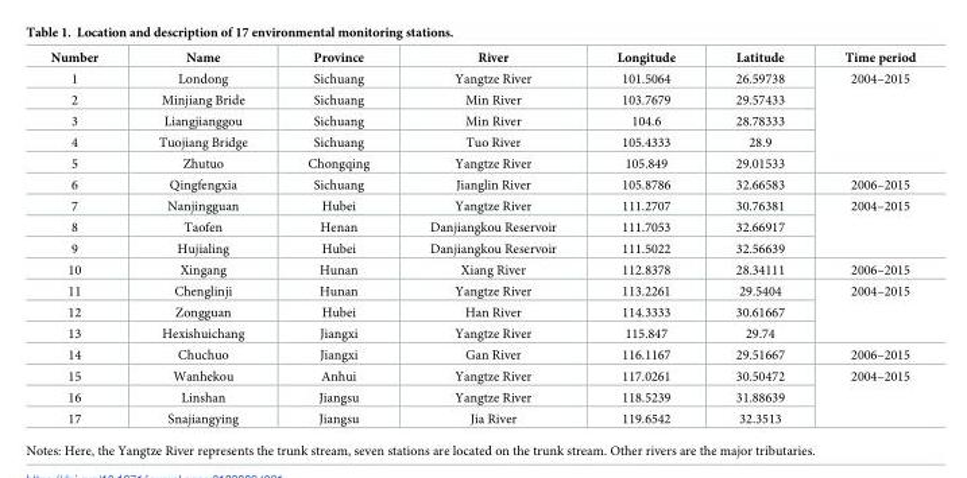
<table><thead><tr><td>Number</td><td>Name</td><td>Province</td><td>River</td><td>Longitude</td><td>Latitude</td><td>Time period</td></tr></thead><tbody><tr><td>1</td><td>Londong</td><td>Sichuang</td><td>Yangtze River</td><td>101.5064</td><td>26.59738</td><td rowspan="5">2004–2015</td></tr><tr><td>2</td><td>Minjiang Bride</td><td>Sichuang</td><td>Min River</td><td>103.7679</td><td>29.57433</td></tr><tr><td>3</td><td>Liangjianggou</td><td>Sichuang</td><td>Min River</td><td>104.6</td><td>28.78333</td></tr><tr><td>4</td><td>Tuojiang Bridge</td><td>Sichuang</td><td>Tuo River</td><td>105.4333</td><td>28.9</td></tr><tr><td>5</td><td>Zhutuo</td><td>Chongqing</td><td>Yangtze River</td><td>105.849</td><td>29.01533</td></tr><tr><td>6</td><td>Qingfengxia</td><td>Sichuang</td><td>Jianglin River</td><td>105.8786</td><td>32.66583</td><td>2006–2015</td></tr><tr><td>7</td><td>Nanjingguan</td><td>Hubei</td><td>Yangtze River</td><td>111.2707</td><td>30.76381</td><td rowspan="3">2004–2015</td></tr><tr><td>8</td><td>Taofen</td><td>Henan</td><td>Danjiangkou Reservoir</td><td>111.7053</td><td>32.66917</td></tr><tr><td>9</td><td>Hujialing</td><td>Hubei</td><td>Danjiangkou Reservoir</td><td>111.5022</td><td>32.56639</td></tr><tr><td>10</td><td>Xingang</td><td>Hunan</td><td>Xiang River</td><td>112.8378</td><td>28.34111</td><td>2006–2015</td></tr><tr><td>11</td><td>Chenglinji</td><td>Hunan</td><td>Yangtze River</td><td>113.2261</td><td>29.5404</td><td rowspan="3">2004–2015</td></tr><tr><td>12</td><td>Zongguan</td><td>Hubei</td><td>Han River</td><td>114.3333</td><td>30.61667</td></tr><tr><td>13</td><td>Hexishuichang</td><td>Jiangxi</td><td>Yangtze River</td><td>115.847</td><td>29.74</td></tr><tr><td>14</td><td>Chuchuo</td><td>Jiangxi</td><td>Gan River</td><td>116.1167</td><td>29.51667</td><td>2006–2015</td></tr><tr><td>15</td><td>Wanhekou</td><td>Anhui</td><td>Yangtze River</td><td>117.0261</td><td>30.50472</td><td rowspan="3">2004–2015</td></tr><tr><td>16</td><td>Linshan</td><td>Jiangsu</td><td>Yangtze River</td><td>118.5239</td><td>31.88639</td></tr><tr><td>17</td><td>Snajiangying</td><td>Jiangsu</td><td>Jia River</td><td>119.6542</td><td>32.3513</td></tr></tbody></table>